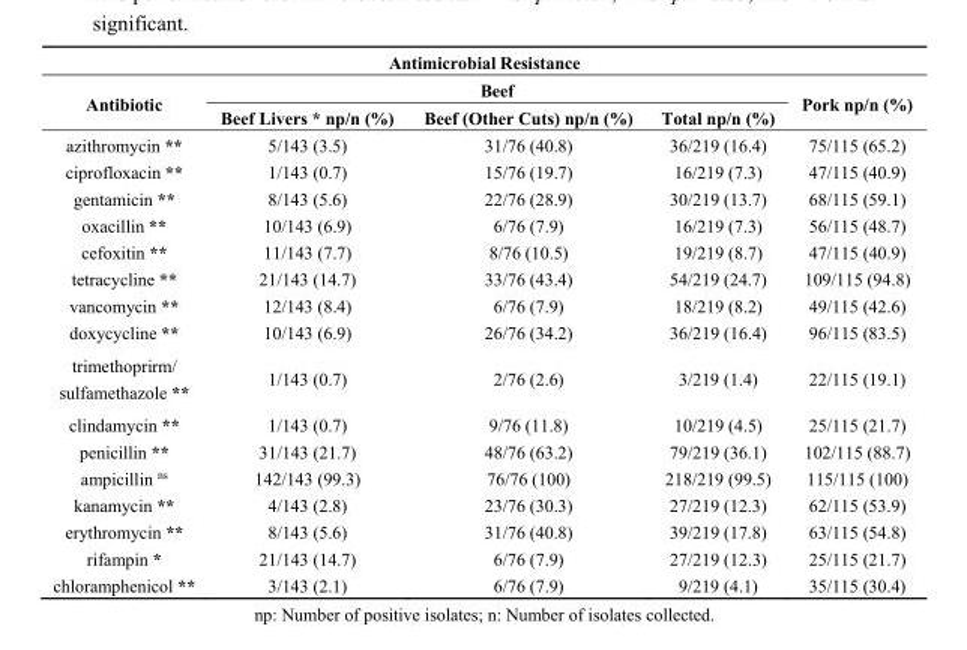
<table><thead><tr><td colspan="5">Antimicrobial Resistance</td></tr><tr><td rowspan="2">Antibiotic</td><td colspan="3">Beef</td><td rowspan="2">Pork np/n (%)</td></tr><tr><td>Beef Livers * np/n (%)</td><td>Beef (Other Cuts) np/n (%)</td><td>Total np/n (%)</td></tr></thead><tbody><tr><td>azithromycin **</td><td>5/143 (3.5)</td><td>31/76 (40.8)</td><td>36/219 (16.4)</td><td>75/115 (65.2)</td></tr><tr><td>ciprofloxacin **</td><td>1/143 (0.7)</td><td>15/76 (19.7)</td><td>16/219 (7.3)</td><td>47/115 (40.9)</td></tr><tr><td>gentamicin **</td><td>8/143 (5.6)</td><td>22/76 (28.9)</td><td>30/219 (13.7)</td><td>68/115 (59.1)</td></tr><tr><td>oxacillin **</td><td>10/143 (6.9)</td><td>6/76 (7.9)</td><td>16/219 (7.3)</td><td>56/115 (48.7)</td></tr><tr><td>cefoxitin **</td><td>11/143 (7.7)</td><td>8/76 (10.5)</td><td>19/219 (8.7)</td><td>47/115 (40.9)</td></tr><tr><td>tetracycline **</td><td>21/143 (14.7)</td><td>33/76 (43.4)</td><td>54/219 (24.7)</td><td>109/115 (94.8)</td></tr><tr><td>vancomycin **</td><td>12/143 (8.4)</td><td>6/76 (7.9)</td><td>18/219 (8.2)</td><td>49/115 (42.6)</td></tr><tr><td>doxycycline **</td><td>10/143 (6.9)</td><td>26/76 (34.2)</td><td>36/219 (16.4)</td><td>96/115 (83.5)</td></tr><tr><td>trimethoprirm/ sulfamethazole **</td><td>1/143 (0.7)</td><td>2/76 (2.6)</td><td>3/219 (1.4)</td><td>22/115 (19.1)</td></tr><tr><td>clindamycin **</td><td>1/143 (0.7)</td><td>9/76 (11.8)</td><td>10/219 (4.5)</td><td>25/115 (21.7)</td></tr><tr><td>penicillin **</td><td>31/143 (21.7)</td><td>48/76 (63.2)</td><td>79/219 (36.1)</td><td>102/115 (88.7)</td></tr><tr><td>ampicillin <sup>ns</sup></td><td>142/143 (99.3)</td><td>76/76 (100)</td><td>218/219 (99.5)</td><td>115/115 (100)</td></tr><tr><td>kanamycin **</td><td>4/143 (2.8)</td><td>23/76 (30.3)</td><td>27/219 (12.3)</td><td>62/115 (53.9)</td></tr><tr><td>erythromycin **</td><td>8/143 (5.6)</td><td>31/76 (40.8)</td><td>39/219 (17.8)</td><td>63/115 (54.8)</td></tr><tr><td>rifampin *</td><td>21/143 (14.7)</td><td>6/76 (7.9)</td><td>27/219 (12.3)</td><td>25/115 (21.7)</td></tr><tr><td>chloramphenicol **</td><td>3/143 (2.1)</td><td>6/76 (7.9)</td><td>9/219 (4.1)</td><td>35/115 (30.4)</td></tr></tbody></table>